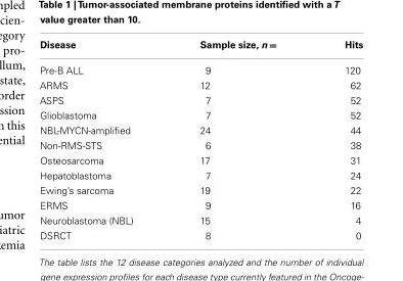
<table><thead><tr><td>Disease</td><td>Sample size, n =</td><td>Hits</td></tr></thead><tbody><tr><td>Pre-B ALL</td><td>9</td><td>120</td></tr><tr><td>ARMS</td><td>12</td><td>62</td></tr><tr><td>ASPS</td><td>7</td><td>52</td></tr><tr><td>Glioblastoma</td><td>7</td><td>52</td></tr><tr><td>NBL-MYCN-amplified</td><td>24</td><td>44</td></tr><tr><td>Non-RMS-STS</td><td>6</td><td>38</td></tr><tr><td>Osteosarcoma</td><td>17</td><td>31</td></tr><tr><td>Hepatoblastoma</td><td>7</td><td>24</td></tr><tr><td>Ewing’s sarcoma</td><td>19</td><td>22</td></tr><tr><td>ERMS</td><td>9</td><td>16</td></tr><tr><td>Neuroblastoma (NBL)</td><td>15</td><td>4</td></tr><tr><td>DSRCT</td><td>8</td><td>0</td></tr></tbody></table>